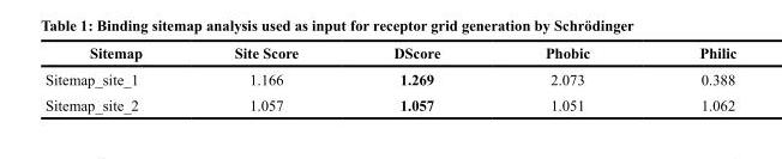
<table><thead><tr><td>Sitemap</td><td>Site Score</td><td>DScore</td><td>Phobic</td><td>Philic</td></tr></thead><tbody><tr><td>Sitemap_site_1</td><td>1.166</td><td>1.269</td><td>2.073</td><td>0.388</td></tr><tr><td>Sitemap_site_2</td><td>1.057</td><td>1.057</td><td>1.051</td><td>1.062</td></tr></tbody></table>